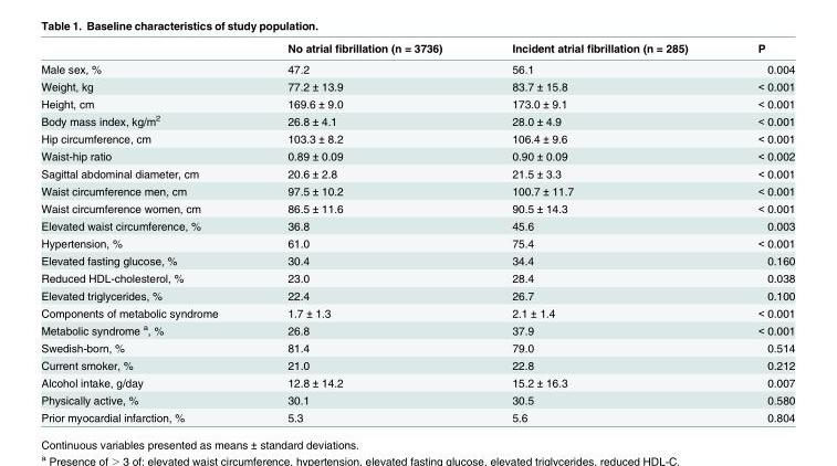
<table><thead><tr><td></td><td>No atrial fibrillation (n = 3736)</td><td>Incident atrial fibrillation (n = 285)</td><td>P</td></tr></thead><tbody><tr><td>Male sex, %</td><td>47.2</td><td>56.1</td><td>0.004</td></tr><tr><td>Weight, kg</td><td>77.2 ± 13.9</td><td>83.7 ± 15.8</td><td>&lt; 0.001</td></tr><tr><td>Height, cm</td><td>169.6 ± 9.0</td><td>173.0 ± 9.1</td><td>&lt; 0.001</td></tr><tr><td>Body mass index, kg/m<sup>2</sup></td><td>26.8 ± 4.1</td><td>28.0 ± 4.9</td><td>&lt; 0.001</td></tr><tr><td>Hip circumference, cm</td><td>103.3 ± 8.2</td><td>106.4 ± 9.6</td><td>&lt; 0.001</td></tr><tr><td>Waist-hip ratio</td><td>0.89 ± 0.09</td><td>0.90 ± 0.09</td><td>&lt; 0.002</td></tr><tr><td>Sagittal abdominal diameter, cm</td><td>20.6 ± 2.8</td><td>21.5 ± 3.3</td><td>&lt; 0.001</td></tr><tr><td>Waist circumference men, cm</td><td>97.5 ± 10.2</td><td>100.7 ± 11.7</td><td>&lt; 0.001</td></tr><tr><td>Waist circumference women, cm</td><td>86.5 ± 11.6</td><td>90.5 ± 14.3</td><td>&lt; 0.001</td></tr><tr><td>Elevated waist circumference, %</td><td>36.8</td><td>45.6</td><td>0.003</td></tr><tr><td>Hypertension, %</td><td>61.0</td><td>75.4</td><td>&lt; 0.001</td></tr><tr><td>Elevated fasting glucose, %</td><td>30.4</td><td>34.4</td><td>0.160</td></tr><tr><td>Reduced HDL-cholesterol, %</td><td>23.0</td><td>28.4</td><td>0.038</td></tr><tr><td>Elevated triglycerides, %</td><td>22.4</td><td>26.7</td><td>0.100</td></tr><tr><td>Components of metabolic syndrome</td><td>1.7 ± 1.3</td><td>2.1 ± 1.4</td><td>&lt; 0.001</td></tr><tr><td>Metabolic syndrome <sup>a</sup>, %</td><td>26.8</td><td>37.9</td><td>&lt; 0.001</td></tr><tr><td>Swedish-born, %</td><td>81.4</td><td>79.0</td><td>0.514</td></tr><tr><td>Current smoker, %</td><td>21.0</td><td>22.8</td><td>0.212</td></tr><tr><td>Alcohol intake, g/day</td><td>12.8 ± 14.2</td><td>15.2 ± 16.3</td><td>0.007</td></tr><tr><td>Physically active, %</td><td>30.1</td><td>30.5</td><td>0.580</td></tr><tr><td>Prior myocardial infarction, %</td><td>5.3</td><td>5.6</td><td>0.804</td></tr></tbody></table>